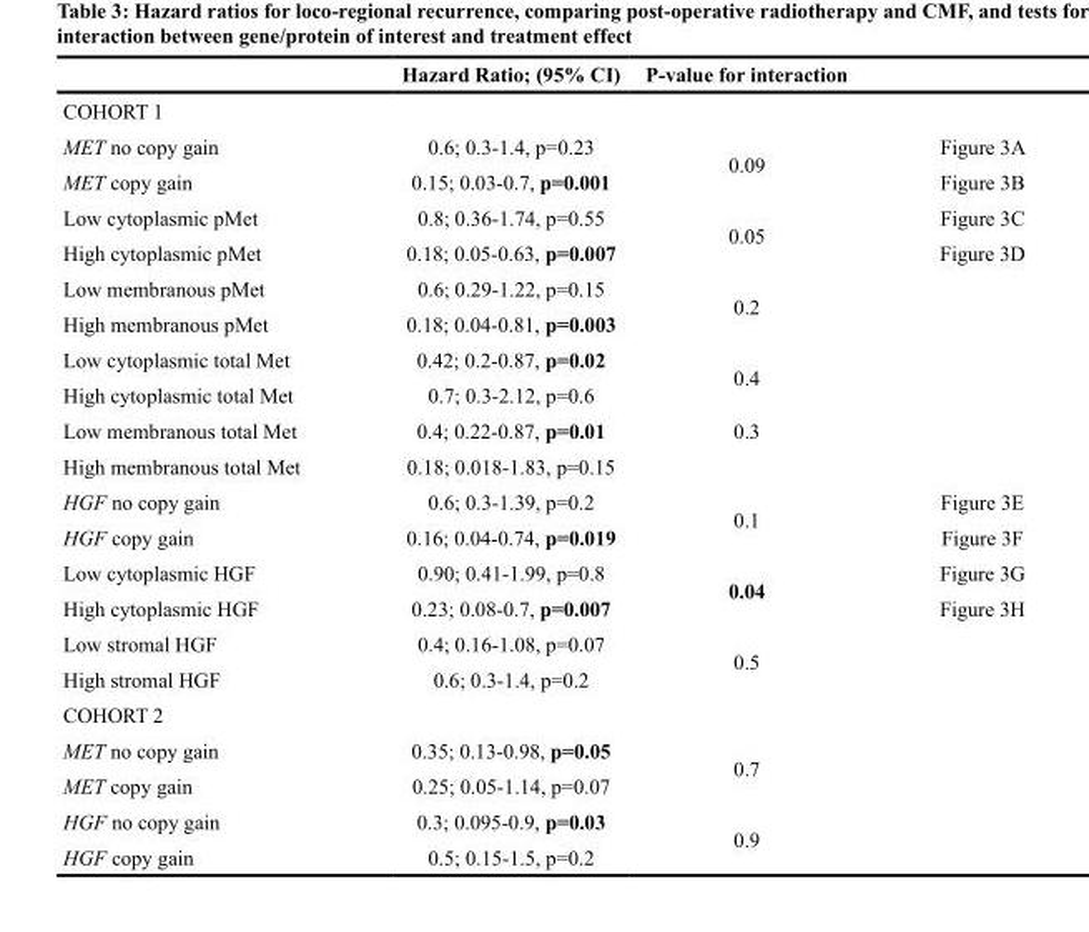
<table><thead><tr><td></td><td>Hazard Ratio; (95% CI)</td><td>P-value for interaction</td><td></td></tr></thead><tbody><tr><td colspan="4">COHORT 1</td></tr><tr><td>MET no copy gain</td><td>0.6; 0.3-1.4, p=0.23</td><td rowspan="2">0.09</td><td>Figure 3A</td></tr><tr><td>MET copy gain</td><td>0.15; 0.03-0.7, p=0.001</td><td>Figure 3B</td></tr><tr><td>Low cytoplasmic pMet</td><td>0.8; 0.36-1.74, p=0.55</td><td rowspan="2">0.05</td><td>Figure 3C</td></tr><tr><td>High cytoplasmic pMet</td><td>0.18; 0.05-0.63, p=0.007</td><td>Figure 3D</td></tr><tr><td>Low membranous pMet</td><td>0.6; 0.29-1.22, p=0.15</td><td rowspan="2">0.2</td><td rowspan="2"></td></tr><tr><td>High membranous pMet</td><td>0.18; 0.04-0.81, p=0.003</td></tr><tr><td>Low cytoplasmic total Met</td><td>0.42; 0.2-0.87, p=0.02</td><td rowspan="2">0.4</td><td rowspan="2"></td></tr><tr><td>High cytoplasmic total Met</td><td>0.7; 0.3-2.12, p=0.6</td></tr><tr><td>Low membranous total Met</td><td>0.4; 0.22-0.87, p=0.01</td><td rowspan="2">0.3</td><td rowspan="2"></td></tr><tr><td>High membranous total Met</td><td>0.18; 0.018-1.83, p=0.15</td></tr><tr><td>HGF no copy gain</td><td>0.6; 0.3-1.39, p=0.2</td><td rowspan="2">0.1</td><td>Figure 3E</td></tr><tr><td>HGF copy gain</td><td>0.16; 0.04-0.74, p=0.019</td><td>Figure 3F</td></tr><tr><td>Low cytoplasmic HGF</td><td>0.90; 0.41-1.99, p=0.8</td><td rowspan="2">0.04</td><td>Figure 3G</td></tr><tr><td>High cytoplasmic HGF</td><td>0.23; 0.08-0.7, p=0.007</td><td>Figure 3H</td></tr><tr><td>Low stromal HGF</td><td>0.4; 0.16-1.08, p=0.07</td><td rowspan="2">0.5</td><td rowspan="2"></td></tr><tr><td>High stromal HGF</td><td>0.6; 0.3-1.4, p=0.2</td></tr><tr><td colspan="4">COHORT 2</td></tr><tr><td>MET no copy gain</td><td>0.35; 0.13-0.98, p=0.05</td><td rowspan="2">0.7</td><td rowspan="2"></td></tr><tr><td>MET copy gain</td><td>0.25; 0.05-1.14, p=0.07</td></tr><tr><td>HGF no copy gain</td><td>0.3; 0.095-0.9, p=0.03</td><td rowspan="2">0.9</td><td rowspan="2"></td></tr><tr><td>HGF copy gain</td><td>0.5; 0.15-1.5, p=0.2</td></tr></tbody></table>